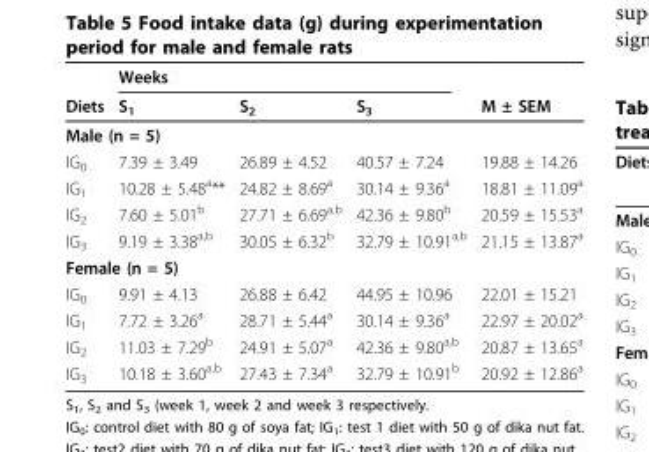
<table><thead><tr><td rowspan="2">Diets</td><td colspan="3">Weeks</td><td rowspan="2">M ± SEM</td></tr><tr><td>S<sub>1</sub></td><td>S<sub>2</sub></td><td>S<sub>3</sub></td></tr></thead><tbody><tr><td colspan="5">Male (n = 5)</td></tr><tr><td>IG<sub>0</sub></td><td>7.39 ± 3.49</td><td>26.89 ± 4.52</td><td>40.57 ± 7.24</td><td>19.88 ± 14.26</td></tr><tr><td>IG<sub>1</sub></td><td>10.28 ± 5.48<sup>a</sup>**</td><td>24.82 ± 8.69<sup>a</sup></td><td>30.14 ± 9.36<sup>a</sup></td><td>18.81 ± 11.09<sup>a</sup></td></tr><tr><td>IG<sub>2</sub></td><td>7.60 ± 5.01<sup>b</sup></td><td>27.71 ± 6.69<sup>a,b</sup></td><td>42.36 ± 9.80<sup>b</sup></td><td>20.59 ± 15.53<sup>a</sup></td></tr><tr><td>IG<sub>3</sub></td><td>9.19 ± 3.38<sup>a,b</sup></td><td>30.05 ± 6.32<sup>b</sup></td><td>32.79 ± 10.91<sup>a,b</sup></td><td>21.15 ± 13.87<sup>a</sup></td></tr><tr><td colspan="5">Female (n = 5)</td></tr><tr><td>IG<sub>0</sub></td><td>9.91 ± 4.13</td><td>26.88 ± 6.42</td><td>44.95 ± 10.96</td><td>22.01 ± 15.21</td></tr><tr><td>IG<sub>1</sub></td><td>7.72 ± 3.26<sup>a</sup></td><td>28.71 ± 5.44<sup>a</sup></td><td>30.14 ± 9.36<sup>a</sup></td><td>22.97 ± 20.02<sup>a</sup></td></tr><tr><td>IG<sub>2</sub></td><td>11.03 ± 7.29<sup>b</sup></td><td>24.91 ± 5.07<sup>a</sup></td><td>42.36 ± 9.80<sup>a,b</sup></td><td>20.87 ± 13.65<sup>a</sup></td></tr><tr><td>IG<sub>3</sub></td><td>10.18 ± 3.60<sup>a,b</sup></td><td>27.43 ± 7.34<sup>a</sup></td><td>32.79 ± 10.91<sup>b</sup></td><td>20.92 ± 12.86<sup>a</sup></td></tr></tbody></table>